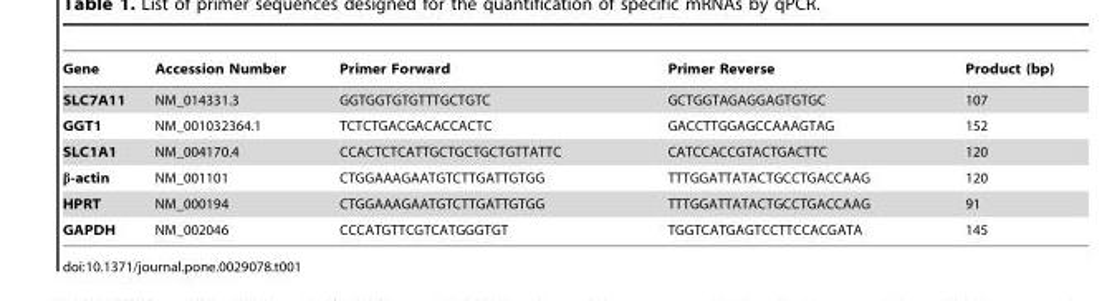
<table><thead><tr><td>Gene</td><td>Accession Number</td><td>Primer Forward</td><td>Primer Reverse</td><td>Product (bp)</td></tr></thead><tbody><tr><td>SLC7A11</td><td>NM_014331.3</td><td>GGTGGTGTGTTTGCTGTC</td><td>GCTGGTAGAGGAGTGTGC</td><td>107</td></tr><tr><td>GGT1</td><td>NM_001032364.1</td><td>TCTCTGACGACACCACTC</td><td>GACCTTGGAGCCAAAGTAG</td><td>152</td></tr><tr><td>SLC1A1</td><td>NM_004170.4</td><td>CCACTCTCATTGCTGCTGCTGTTATTC</td><td>CATCCACCGTACTGACTTC</td><td>120</td></tr><tr><td>β-actin</td><td>NM_001101</td><td>CTGGAAAGAATGTCTTGATTGTGG</td><td>TTTGGATTATACTGCCTGACCAAG</td><td>120</td></tr><tr><td>HPRT</td><td>NM_000194</td><td>CTGGAAAGAATGTCTTGATTGTGG</td><td>TTTGGATTATACTGCCTGACCAAG</td><td>91</td></tr><tr><td>GAPDH</td><td>NM_002046</td><td>CCCATGTTCGTCATGGGTGT</td><td>TGGTCATGAGTCCTTCCACGATA</td><td>145</td></tr></tbody></table>